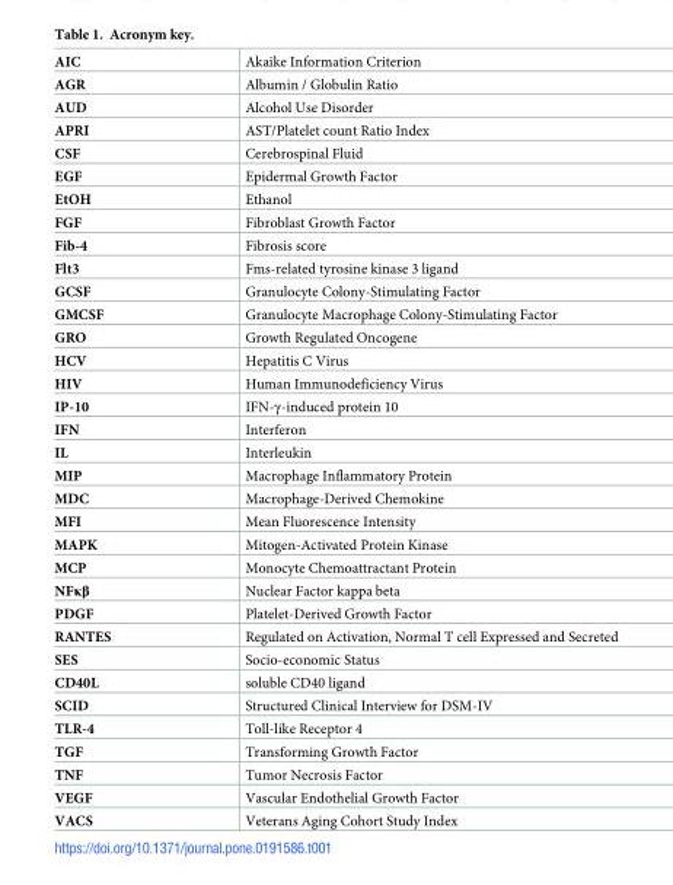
<table><tbody><tr><td>AIC</td><td>Akaike Information Criterion</td></tr><tr><td>AGR</td><td>Albumin / Globulin Ratio</td></tr><tr><td>AUD</td><td>Alcohol Use Disorder</td></tr><tr><td>APRI</td><td>AST/Platelet count Ratio Index</td></tr><tr><td>CSF</td><td>Cerebrospinal Fluid</td></tr><tr><td>EGF</td><td>Epidermal Growth Factor</td></tr><tr><td>EtOH</td><td>Ethanol</td></tr><tr><td>FGF</td><td>Fibroblast Growth Factor</td></tr><tr><td>Fib-4</td><td>Fibrosis score</td></tr><tr><td>Flt3</td><td>Fms-related tyrosine kinase 3 ligand</td></tr><tr><td>GCSF</td><td>Granulocyte Colony-Stimulating Factor</td></tr><tr><td>GMCSF</td><td>Granulocyte Macrophage Colony-Stimulating Factor</td></tr><tr><td>GRO</td><td>Growth Regulated Oncogene</td></tr><tr><td>HCV</td><td>Hepatitis C Virus</td></tr><tr><td>HIV</td><td>Human Immunodeficiency Virus</td></tr><tr><td>IP-10</td><td>IFN-γ-induced protein 10</td></tr><tr><td>IFN</td><td>Interferon</td></tr><tr><td>IL</td><td>Interleukin</td></tr><tr><td>MIP</td><td>Macrophage Inflammatory Protein</td></tr><tr><td>MDC</td><td>Macrophage-Derived Chemokine</td></tr><tr><td>MFI</td><td>Mean Fluorescence Intensity</td></tr><tr><td>MAPK</td><td>Mitogen-Activated Protein Kinase</td></tr><tr><td>MCP</td><td>Monocyte Chemoattractant Protein</td></tr><tr><td>NFκβ</td><td>Nuclear Factor kappa beta</td></tr><tr><td>PDGF</td><td>Platelet-Derived Growth Factor</td></tr><tr><td>RANTES</td><td>Regulated on Activation, Normal T cell Expressed and Secreted</td></tr><tr><td>SES</td><td>Socio-economic Status</td></tr><tr><td>CD40L</td><td>soluble CD40 ligand</td></tr><tr><td>SCID</td><td>Structured Clinical Interview for DSM-IV</td></tr><tr><td>TLR-4</td><td>Toll-like Receptor 4</td></tr><tr><td>TGF</td><td>Transforming Growth Factor</td></tr><tr><td>TNF</td><td>Tumor Necrosis Factor</td></tr><tr><td>VEGF</td><td>Vascular Endothelial Growth Factor</td></tr><tr><td>VACS</td><td>Veterans Aging Cohort Study Index</td></tr></tbody></table>